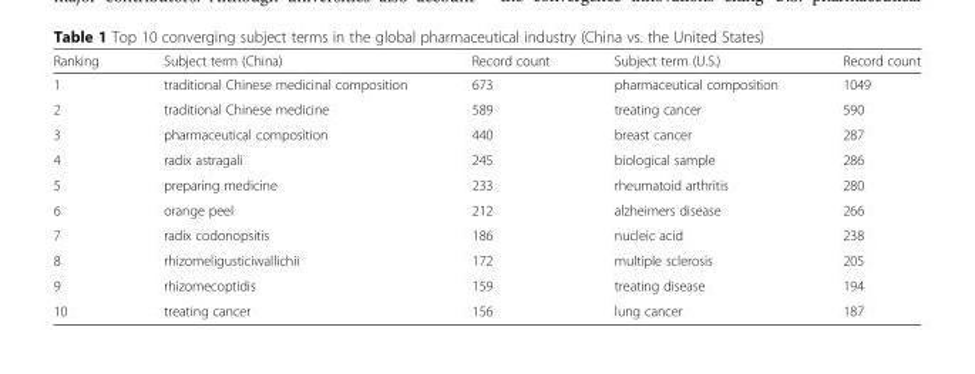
<table><thead><tr><td>Ranking</td><td>Subject term (China)</td><td>Record count</td><td>Subject term (U.S.)</td><td>Record count</td></tr></thead><tbody><tr><td>1</td><td>traditional Chinese medicinal composition</td><td>673</td><td>pharmaceutical composition</td><td>1049</td></tr><tr><td>2</td><td>traditional Chinese medicine</td><td>589</td><td>treating cancer</td><td>590</td></tr><tr><td>3</td><td>pharmaceutical composition</td><td>440</td><td>breast cancer</td><td>287</td></tr><tr><td>4</td><td>radix astragali</td><td>245</td><td>biological sample</td><td>286</td></tr><tr><td>5</td><td>preparing medicine</td><td>233</td><td>rheumatoid arthritis</td><td>280</td></tr><tr><td>6</td><td>orange peel</td><td>212</td><td>alzheimers disease</td><td>266</td></tr><tr><td>7</td><td>radix codonopsitis</td><td>186</td><td>nucleic acid</td><td>238</td></tr><tr><td>8</td><td>rhizomeligusticiwallichii</td><td>172</td><td>multiple sclerosis</td><td>205</td></tr><tr><td>9</td><td>rhizomecoptidis</td><td>159</td><td>treating disease</td><td>194</td></tr><tr><td>10</td><td>treating cancer</td><td>156</td><td>lung cancer</td><td>187</td></tr></tbody></table>